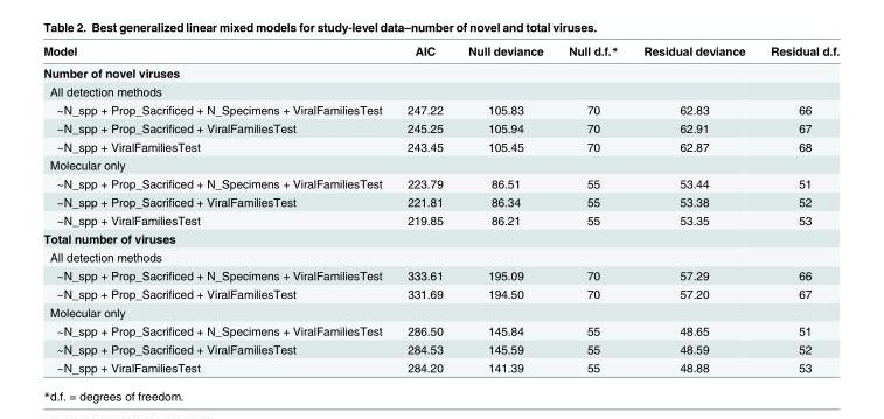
<table><thead><tr><td>Model</td><td>AIC</td><td>Null deviance</td><td>Null d.f.*</td><td>Residual deviance</td><td>Residual d.f.</td></tr></thead><tbody><tr><td colspan="6">Number of novel viruses</td></tr><tr><td colspan="6">All detection methods</td></tr><tr><td>~N_spp + Prop_Sacrificed + N_Specimens + ViralFamiliesTest</td><td>247.22</td><td>105.83</td><td>70</td><td>62.83</td><td>66</td></tr><tr><td>~N_spp + Prop_Sacrificed + ViralFamiliesTest</td><td>245.25</td><td>105.94</td><td>70</td><td>62.91</td><td>67</td></tr><tr><td>~N_spp + ViralFamiliesTest</td><td>243.45</td><td>105.45</td><td>70</td><td>62.87</td><td>68</td></tr><tr><td colspan="6">Molecular only</td></tr><tr><td>~N_spp + Prop_Sacrificed + N_Specimens + ViralFamiliesTest</td><td>223.79</td><td>86.51</td><td>55</td><td>53.44</td><td>51</td></tr><tr><td>~N_spp + Prop_Sacrificed + ViralFamiliesTest</td><td>221.81</td><td>86.34</td><td>55</td><td>53.38</td><td>52</td></tr><tr><td>~N_spp + ViralFamiliesTest</td><td>219.85</td><td>86.21</td><td>55</td><td>53.35</td><td>53</td></tr><tr><td colspan="6">Total number of viruses</td></tr><tr><td colspan="6">All detection methods</td></tr><tr><td>~N_spp + Prop_Sacrificed + N_Specimens + ViralFamiliesTest</td><td>333.61</td><td>195.09</td><td>70</td><td>57.29</td><td>66</td></tr><tr><td>~N_spp + Prop_Sacrificed + ViralFamiliesTest</td><td>331.69</td><td>194.50</td><td>70</td><td>57.20</td><td>67</td></tr><tr><td colspan="6">Molecular only</td></tr><tr><td>~N_spp + Prop_Sacrificed + N_Specimens + ViralFamiliesTest</td><td>286.50</td><td>145.84</td><td>55</td><td>48.65</td><td>51</td></tr><tr><td>~N_spp + Prop_Sacrificed + ViralFamiliesTest</td><td>284.53</td><td>145.59</td><td>55</td><td>48.59</td><td>52</td></tr><tr><td>~N_spp + ViralFamiliesTest</td><td>284.20</td><td>141.39</td><td>55</td><td>48.88</td><td>53</td></tr></tbody></table>